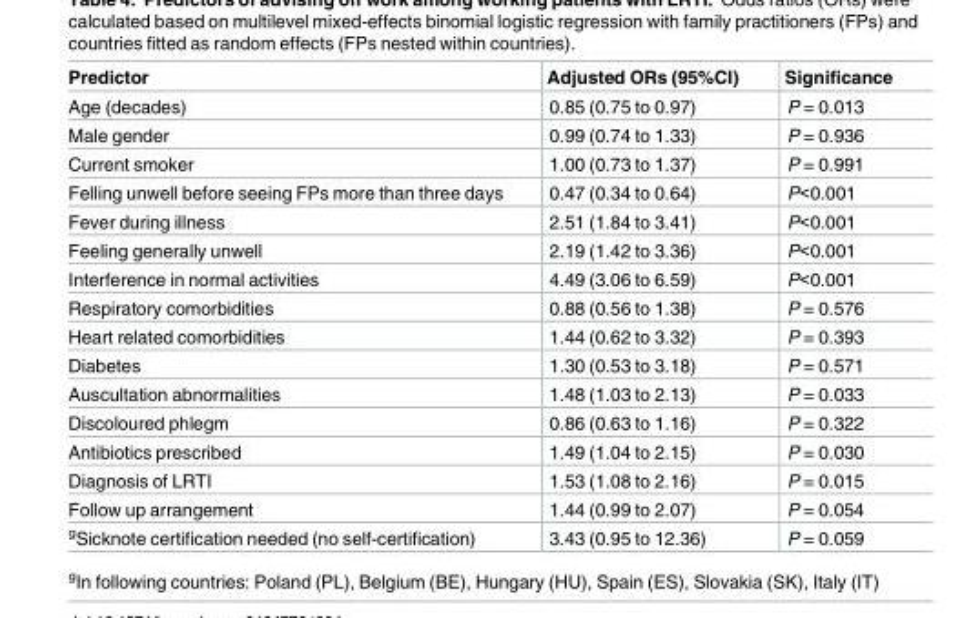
<table><thead><tr><td>Predictor</td><td>Adjusted ORs (95%CI)</td><td>Significance</td></tr></thead><tbody><tr><td>Age (decades)</td><td>0.85 (0.75 to 0.97)</td><td>P = 0.013</td></tr><tr><td>Male gender</td><td>0.99 (0.74 to 1.33)</td><td>P = 0.936</td></tr><tr><td>Current smoker</td><td>1.00 (0.73 to 1.37)</td><td>P = 0.991</td></tr><tr><td>Felling unwell before seeing FPs more than three days</td><td>0.47 (0.34 to 0.64)</td><td>P&lt;0.001</td></tr><tr><td>Fever during illness</td><td>2.51 (1.84 to 3.41)</td><td>P&lt;0.001</td></tr><tr><td>Feeling generally unwell</td><td>2.19 (1.42 to 3.36)</td><td>P&lt;0.001</td></tr><tr><td>Interference in normal activities</td><td>4.49 (3.06 to 6.59)</td><td>P&lt;0.001</td></tr><tr><td>Respiratory comorbidities</td><td>0.88 (0.56 to 1.38)</td><td>P = 0.576</td></tr><tr><td>Heart related comorbidities</td><td>1.44 (0.62 to 3.32)</td><td>P = 0.393</td></tr><tr><td>Diabetes</td><td>1.30 (0.53 to 3.18)</td><td>P = 0.571</td></tr><tr><td>Auscultation abnormalities</td><td>1.48 (1.03 to 2.13)</td><td>P = 0.033</td></tr><tr><td>Discoloured phlegm</td><td>0.86 (0.63 to 1.16)</td><td>P = 0.322</td></tr><tr><td>Antibiotics prescribed</td><td>1.49 (1.04 to 2.15)</td><td>P = 0.030</td></tr><tr><td>Diagnosis of LRTI</td><td>1.53 (1.08 to 2.16)</td><td>P = 0.015</td></tr><tr><td>Follow up arrangement</td><td>1.44 (0.99 to 2.07)</td><td>P = 0.054</td></tr><tr><td><sup>g</sup>Sicknote certification needed (no self-certification)</td><td>3.43 (0.95 to 12.36)</td><td>P = 0.059</td></tr></tbody></table>